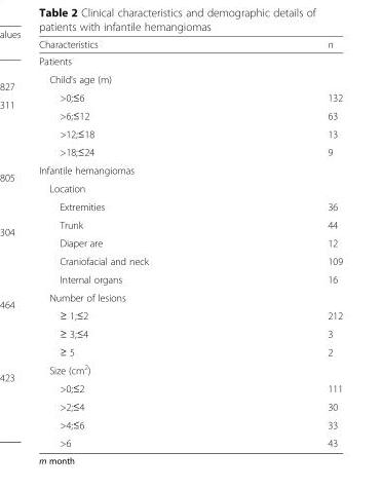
<table><thead><tr><td>Characteristics</td><td>n</td></tr></thead><tbody><tr><td colspan="2">Patients</td></tr><tr><td colspan="2">Child’s age (m)</td></tr><tr><td>&gt;0;≤6</td><td>132</td></tr><tr><td>&gt;6;≤12</td><td>63</td></tr><tr><td>&gt;12;≤18</td><td>13</td></tr><tr><td>&gt;18;≤24</td><td>9</td></tr><tr><td colspan="2">Infantile hemangiomas</td></tr><tr><td colspan="2">Location</td></tr><tr><td>Extremities</td><td>36</td></tr><tr><td>Trunk</td><td>44</td></tr><tr><td>Diaper are</td><td>12</td></tr><tr><td>Craniofacial and neck</td><td>109</td></tr><tr><td>Internal organs</td><td>16</td></tr><tr><td colspan="2">Number of lesions</td></tr><tr><td>≥ 1;≤2</td><td>212</td></tr><tr><td>≥ 3;≤4</td><td>3</td></tr><tr><td>≥ 5</td><td>2</td></tr><tr><td colspan="2">Size (cm<sup>2</sup>)</td></tr><tr><td>&gt;0;≤2</td><td>111</td></tr><tr><td>&gt;2;≤4</td><td>30</td></tr><tr><td>&gt;4;≤6</td><td>33</td></tr><tr><td>&gt;6</td><td>43</td></tr></tbody></table>